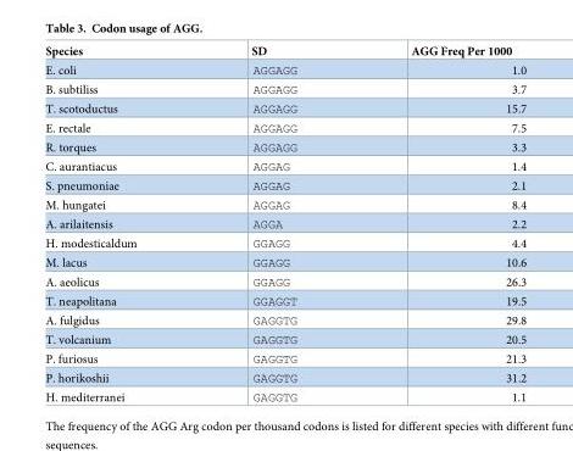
<table><thead><tr><td>Species</td><td>SD</td><td>AGG Freq Per 1000</td></tr></thead><tbody><tr><td>E. coli</td><td>AGGAGG</td><td>1.0</td></tr><tr><td>B. subtiliss</td><td>AGGAGG</td><td>3.7</td></tr><tr><td>T. scotoductus</td><td>AGGAGG</td><td>15.7</td></tr><tr><td>E. rectale</td><td>AGGAGG</td><td>7.5</td></tr><tr><td>R. torques</td><td>AGGAGG</td><td>3.3</td></tr><tr><td>C. aurantiacus</td><td>AGGAG</td><td>1.4</td></tr><tr><td>S. pneumoniae</td><td>AGGAG</td><td>2.1</td></tr><tr><td>M. hungatei</td><td>AGGAG</td><td>8.4</td></tr><tr><td>A. arilaitensis</td><td>AGGA</td><td>2.2</td></tr><tr><td>H. modesticaldum</td><td>GGAGG</td><td>4.4</td></tr><tr><td>M. lacus</td><td>GGAGG</td><td>10.6</td></tr><tr><td>A. aeolicus</td><td>GGAGG</td><td>26.3</td></tr><tr><td>T. neapolitana</td><td>GGAGGT</td><td>19.5</td></tr><tr><td>A. fulgidus</td><td>GAGGTG</td><td>29.8</td></tr><tr><td>T. volcanium</td><td>GAGGTG</td><td>20.5</td></tr><tr><td>P. furiosus</td><td>GAGGTG</td><td>21.3</td></tr><tr><td>P. horikoshii</td><td>GAGGTG</td><td>31.2</td></tr><tr><td>H. mediterranei</td><td>GAGGTG</td><td>1.1</td></tr></tbody></table>